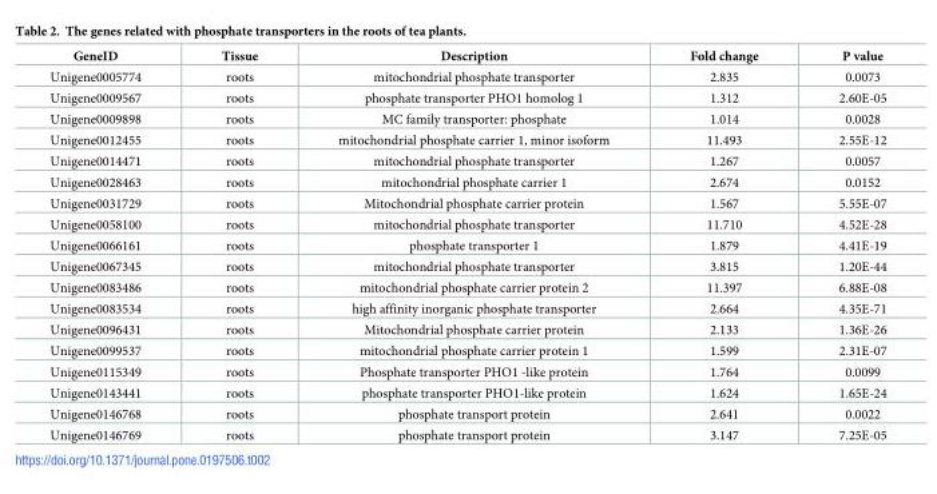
<table><thead><tr><td>GeneID</td><td>Tissue</td><td>Description</td><td>Fold change</td><td>P value</td></tr></thead><tbody><tr><td>Unigene0005774</td><td>roots</td><td>mitochondrial phosphate transporter</td><td>2.835</td><td>0.0073</td></tr><tr><td>Unigene0009567</td><td>roots</td><td>phosphate transporter PHO1 homolog 1</td><td>1.312</td><td>2.60E-05</td></tr><tr><td>Unigene0009898</td><td>roots</td><td>MC family transporter: phosphate</td><td>1.014</td><td>0.0028</td></tr><tr><td>Unigene0012455</td><td>roots</td><td>mitochondrial phosphate carrier 1, minor isoform</td><td>11.493</td><td>2.55E-12</td></tr><tr><td>Unigene0014471</td><td>roots</td><td>mitochondrial phosphate transporter</td><td>1.267</td><td>0.0057</td></tr><tr><td>Unigene0028463</td><td>roots</td><td>mitochondrial phosphate carrier 1</td><td>2.674</td><td>0.0152</td></tr><tr><td>Unigene0031729</td><td>roots</td><td>Mitochondrial phosphate carrier protein</td><td>1.567</td><td>5.55E-07</td></tr><tr><td>Unigene0058100</td><td>roots</td><td>mitochondrial phosphate transporter</td><td>11.710</td><td>4.52E-28</td></tr><tr><td>Unigene0066161</td><td>roots</td><td>phosphate transporter 1</td><td>1.879</td><td>4.41E-19</td></tr><tr><td>Unigene0067345</td><td>roots</td><td>mitochondrial phosphate transporter</td><td>3.815</td><td>1.20E-44</td></tr><tr><td>Unigene0083486</td><td>roots</td><td>mitochondrial phosphate carrier protein 2</td><td>11.397</td><td>6.88E-08</td></tr><tr><td>Unigene0083534</td><td>roots</td><td>high affinity inorganic phosphate transporter</td><td>2.664</td><td>4.35E-71</td></tr><tr><td>Unigene0096431</td><td>roots</td><td>Mitochondrial phosphate carrier protein</td><td>2.133</td><td>1.36E-26</td></tr><tr><td>Unigene0099537</td><td>roots</td><td>mitochondrial phosphate carrier protein 1</td><td>1.599</td><td>2.31E-07</td></tr><tr><td>Unigene0115349</td><td>roots</td><td>Phosphate transporter PHO1 -like protein</td><td>1.764</td><td>0.0099</td></tr><tr><td>Unigene0143441</td><td>roots</td><td>phosphate transporter PHO1-like protein</td><td>1.624</td><td>1.65E-24</td></tr><tr><td>Unigene0146768</td><td>roots</td><td>phosphate transport protein</td><td>2.641</td><td>0.0022</td></tr><tr><td>Unigene0146769</td><td>roots</td><td>phosphate transport protein</td><td>3.147</td><td>7.25E-05</td></tr></tbody></table>